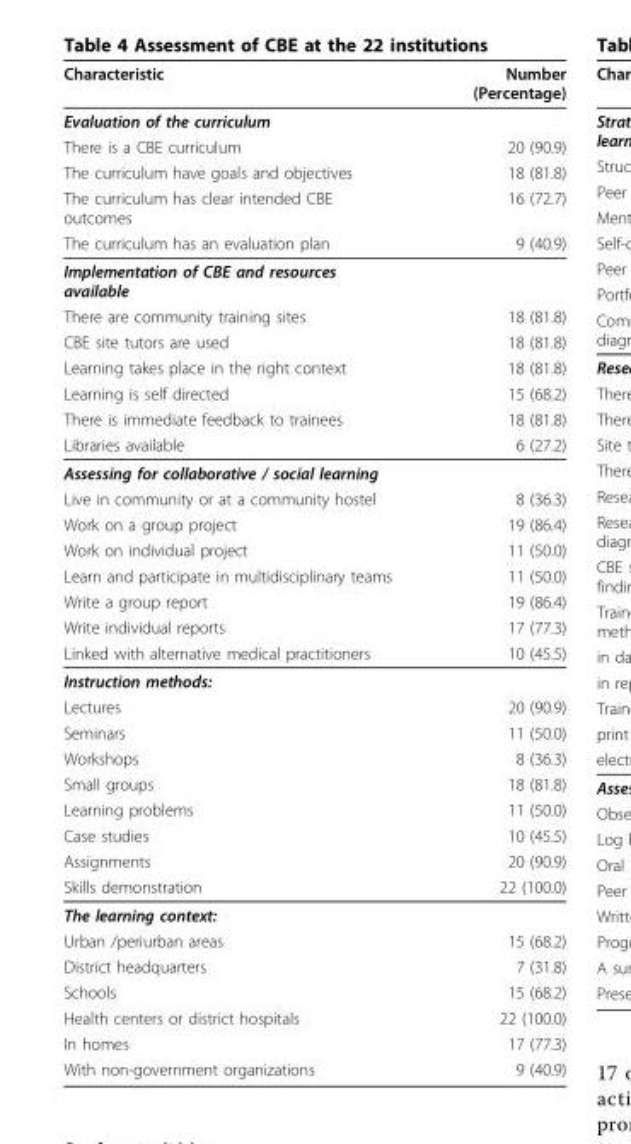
<table><thead><tr><td>Characteristic</td><td>Number (Percentage)</td></tr></thead><tbody><tr><td colspan="2">Evaluation of the curriculum</td></tr><tr><td>There is a CBE curriculum</td><td>20 (90.9)</td></tr><tr><td>The curriculum have goals and objectives</td><td>18 (81.8)</td></tr><tr><td>The curriculum has clear intended CBE outcomes</td><td>16 (72.7)</td></tr><tr><td>The curriculum has an evaluation plan</td><td>9 (40.9)</td></tr><tr><td colspan="2">Implementation of CBE and resources available</td></tr><tr><td>There are community training sites</td><td>18 (81.8)</td></tr><tr><td>CBE site tutors are used</td><td>18 (81.8)</td></tr><tr><td>Learning takes place in the right context</td><td>18 (81.8)</td></tr><tr><td>Learning is self directed</td><td>15 (68.2)</td></tr><tr><td>There is immediate feedback to trainees</td><td>18 (81.8)</td></tr><tr><td>Libraries available</td><td>6 (27.2)</td></tr><tr><td colspan="2">Assessing for collaborative / social learning</td></tr><tr><td>Live in community or at a community hostel</td><td>8 (36.3)</td></tr><tr><td>Work on a group project</td><td>19 (86.4)</td></tr><tr><td>Work on individual project</td><td>11 (50.0)</td></tr><tr><td>Learn and participate in multidisciplinary teams</td><td>11 (50.0)</td></tr><tr><td>Write a group report</td><td>19 (86.4)</td></tr><tr><td>Write individual reports</td><td>17 (77.3)</td></tr><tr><td>Linked with alternative medical practitioners</td><td>10 (45.5)</td></tr><tr><td colspan="2">Instruction methods:</td></tr><tr><td>Lectures</td><td>20 (90.9)</td></tr><tr><td>Seminars</td><td>11 (50.0)</td></tr><tr><td>Workshops</td><td>8 (36.3)</td></tr><tr><td>Small groups</td><td>18 (81.8)</td></tr><tr><td>Learning problems</td><td>11 (50.0)</td></tr><tr><td>Case studies</td><td>10 (45.5)</td></tr><tr><td>Assignments</td><td>20 (90.9)</td></tr><tr><td>Skills demonstration</td><td>22 (100.0)</td></tr><tr><td colspan="2">The learning context:</td></tr><tr><td>Urban /periurban areas</td><td>15 (68.2)</td></tr><tr><td>District headquarters</td><td>7 (31.8)</td></tr><tr><td>Schools</td><td>15 (68.2)</td></tr><tr><td>Health centers or district hospitals</td><td>22 (100.0)</td></tr><tr><td>In homes</td><td>17 (77.3)</td></tr><tr><td>With non-government organizations</td><td>9 (40.9)</td></tr></tbody></table>